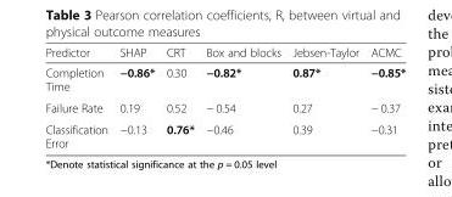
<table><thead><tr><td>Predictor</td><td>SHAP</td><td>CRT</td><td>Box and blocks</td><td>Jebsen-Taylor</td><td>ACMC</td></tr></thead><tbody><tr><td>Completion Time</td><td>−0.86*</td><td>0.30</td><td>−0.82*</td><td>0.87*</td><td>−0.85*</td></tr><tr><td>Failure Rate</td><td>0.19</td><td>0.52</td><td>− 0.54</td><td>0.27</td><td>− 0.37</td></tr><tr><td>Classification Error</td><td>−0.13</td><td>0.76*</td><td>−0.46</td><td>0.39</td><td>−0.31</td></tr></tbody></table>